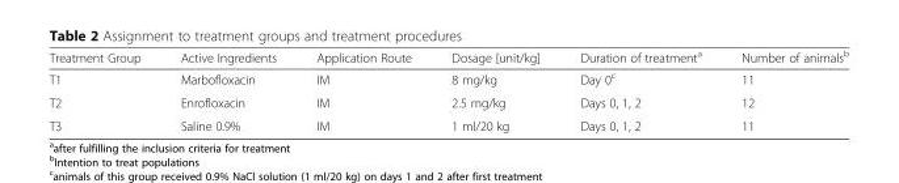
<table><thead><tr><td>Treatment Group</td><td>Active Ingredients</td><td>Application Route</td><td>Dosage [unit/kg]</td><td>Duration of treatment<sup>a</sup></td><td>Number of animals<sup>b</sup></td></tr></thead><tbody><tr><td>T1</td><td>Marbofloxacin</td><td>IM</td><td>8 mg/kg</td><td>Day 0<sup>c</sup></td><td>11</td></tr><tr><td>T2</td><td>Enrofloxacin</td><td>IM</td><td>2.5 mg/kg</td><td>Days 0, 1, 2</td><td>12</td></tr><tr><td>T3</td><td>Saline 0.9%</td><td>IM</td><td>1 ml/20 kg</td><td>Days 0, 1, 2</td><td>11</td></tr></tbody></table>